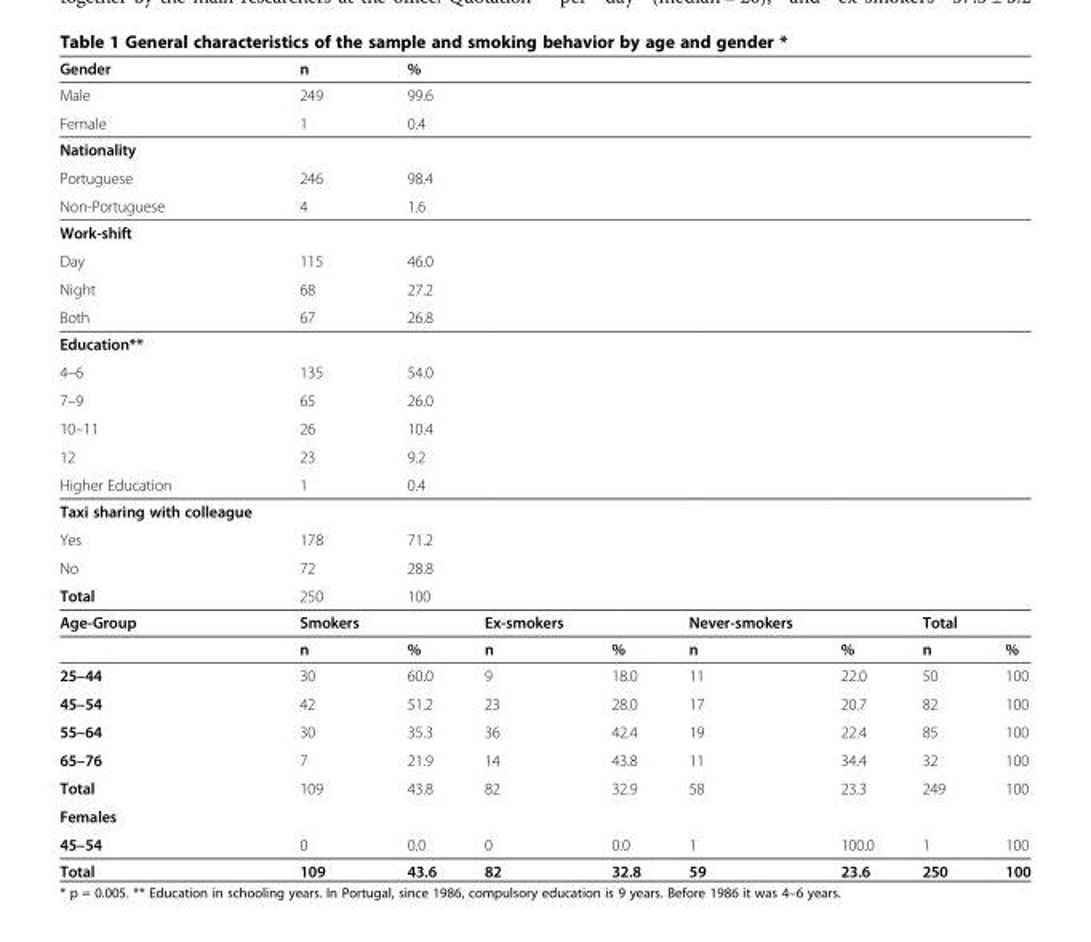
<table><thead><tr><td>Gender</td><td>n</td><td>%</td><td></td><td></td><td></td><td></td><td></td><td></td></tr></thead><tbody><tr><td>Male</td><td>249</td><td>99.6</td><td></td><td></td><td></td><td></td><td></td><td></td></tr><tr><td>Female</td><td>1</td><td>0.4</td><td></td><td></td><td></td><td></td><td></td><td></td></tr><tr><td colspan="9">Nationality</td></tr><tr><td>Portuguese</td><td>246</td><td>98.4</td><td></td><td></td><td></td><td></td><td></td><td></td></tr><tr><td>Non-Portuguese</td><td>4</td><td>1.6</td><td></td><td></td><td></td><td></td><td></td><td></td></tr><tr><td colspan="9">Work-shift</td></tr><tr><td>Day</td><td>115</td><td>46.0</td><td></td><td></td><td></td><td></td><td></td><td></td></tr><tr><td>Night</td><td>68</td><td>27.2</td><td></td><td></td><td></td><td></td><td></td><td></td></tr><tr><td>Both</td><td>67</td><td>26.8</td><td></td><td></td><td></td><td></td><td></td><td></td></tr><tr><td colspan="9">Education**</td></tr><tr><td>4–6</td><td>135</td><td>54.0</td><td></td><td></td><td></td><td></td><td></td><td></td></tr><tr><td>7–9</td><td>65</td><td>26.0</td><td></td><td></td><td></td><td></td><td></td><td></td></tr><tr><td>10–11</td><td>26</td><td>10.4</td><td></td><td></td><td></td><td></td><td></td><td></td></tr><tr><td>12</td><td>23</td><td>9.2</td><td></td><td></td><td></td><td></td><td></td><td></td></tr><tr><td>Higher Education</td><td>1</td><td>0.4</td><td></td><td></td><td></td><td></td><td></td><td></td></tr><tr><td colspan="9">Taxi sharing with colleague</td></tr><tr><td>Yes</td><td>178</td><td>71.2</td><td></td><td></td><td></td><td></td><td></td><td></td></tr><tr><td>No</td><td>72</td><td>28.8</td><td></td><td></td><td></td><td></td><td></td><td></td></tr><tr><td>Total</td><td>250</td><td>100</td><td></td><td></td><td></td><td></td><td></td><td></td></tr><tr><td rowspan="2">Age-Group</td><td>Smokers</td><td></td><td>Ex-smokers</td><td></td><td>Never-smokers</td><td></td><td>Total</td><td></td></tr><tr><td>n</td><td>%</td><td>n</td><td>%</td><td>n</td><td>%</td><td>n</td><td>%</td></tr><tr><td>25–44</td><td>30</td><td>60.0</td><td>9</td><td>18.0</td><td>11</td><td>22.0</td><td>50</td><td>100</td></tr><tr><td>45–54</td><td>42</td><td>51.2</td><td>23</td><td>28.0</td><td>17</td><td>20.7</td><td>82</td><td>100</td></tr><tr><td>55–64</td><td>30</td><td>35.3</td><td>36</td><td>42.4</td><td>19</td><td>22.4</td><td>85</td><td>100</td></tr><tr><td>65–76</td><td>7</td><td>21.9</td><td>14</td><td>43.8</td><td>11</td><td>34.4</td><td>32</td><td>100</td></tr><tr><td>Total</td><td>109</td><td>43.8</td><td>82</td><td>32.9</td><td>58</td><td>23.3</td><td>249</td><td>100</td></tr><tr><td colspan="9">Females</td></tr><tr><td>45–54</td><td>0</td><td>0.0</td><td>0</td><td>0.0</td><td>1</td><td>100.0</td><td>1</td><td>100</td></tr><tr><td>Total</td><td>109</td><td>43.6</td><td>82</td><td>32.8</td><td>59</td><td>23.6</td><td>250</td><td>100</td></tr></tbody></table>